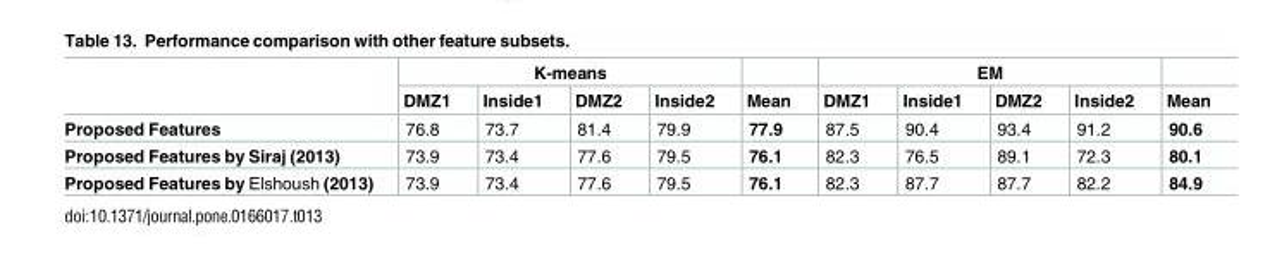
<table><thead><tr><td rowspan="2"></td><td colspan="4">K-means</td><td rowspan="2">Mean</td><td colspan="4">EM</td><td rowspan="2">Mean</td></tr><tr><td>DMZ1</td><td>Inside1</td><td>DMZ2</td><td>Inside2</td><td>DMZ1</td><td>Inside1</td><td>DMZ2</td><td>Inside2</td></tr></thead><tbody><tr><td>Proposed Features</td><td>76.8</td><td>73.7</td><td>81.4</td><td>79.9</td><td>77.9</td><td>87.5</td><td>90.4</td><td>93.4</td><td>91.2</td><td>90.6</td></tr><tr><td>Proposed Features by Siraj (2013)</td><td>73.9</td><td>73.4</td><td>77.6</td><td>79.5</td><td>76.1</td><td>82.3</td><td>76.5</td><td>89.1</td><td>72.3</td><td>80.1</td></tr><tr><td>Proposed Features by Elshoush (2013)</td><td>73.9</td><td>73.4</td><td>77.6</td><td>79.5</td><td>76.1</td><td>82.3</td><td>87.7</td><td>87.7</td><td>82.2</td><td>84.9</td></tr></tbody></table>